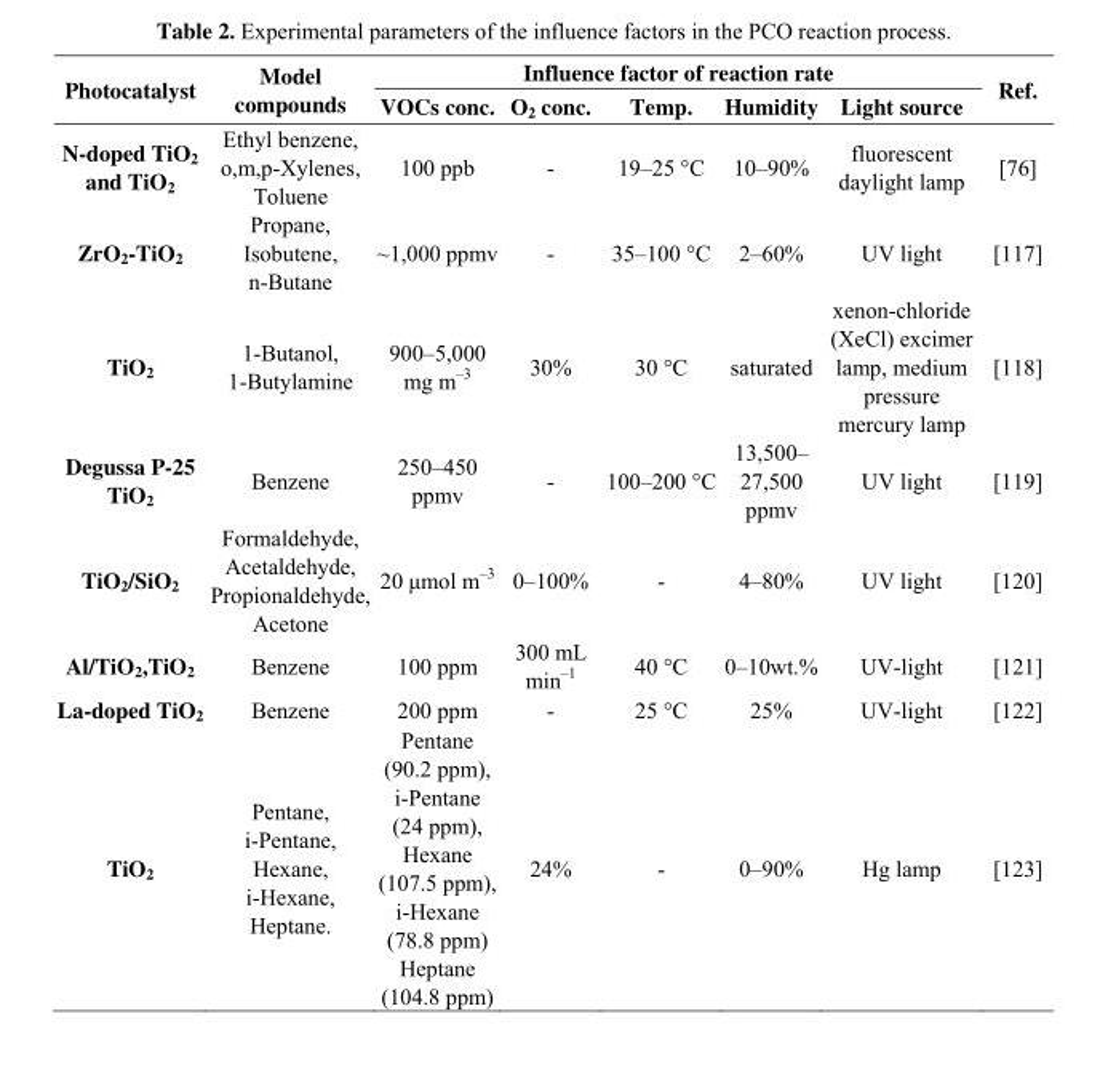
<table><thead><tr><td rowspan="2">Photocatalyst</td><td rowspan="2">Model compounds</td><td colspan="5">Influence factor of reaction rate</td><td rowspan="2">Ref.</td></tr><tr><td>VOCs conc.</td><td>O<sub>2</sub> conc.</td><td>Temp.</td><td>Humidity</td><td>Light source</td></tr></thead><tbody><tr><td>N-doped TiO<sub>2</sub> and TiO<sub>2</sub></td><td>Ethyl benzene, o,m,p-Xylenes, Toluene</td><td>100 ppb</td><td>-</td><td>19–25 °C</td><td>10–90%</td><td>fluorescent daylight lamp</td><td>[76]</td></tr><tr><td>ZrO<sub>2</sub>-TiO<sub>2</sub></td><td>Propane, Isobutene, n-Butane</td><td>~1,000 ppmv</td><td>-</td><td>35–100 °C</td><td>2–60%</td><td>UV light</td><td>[117]</td></tr><tr><td>TiO<sub>2</sub></td><td>1-Butanol, 1-Butylamine</td><td>900–5,000 mg m<sup>–3</sup></td><td>30%</td><td>30 °C</td><td>saturated</td><td>xenon-chloride (XeCl) excimer lamp, medium pressure mercury lamp</td><td>[118]</td></tr><tr><td>Degussa P-25 TiO<sub>2</sub></td><td>Benzene</td><td>250–450 ppmv</td><td>-</td><td>100–200 °C</td><td>13,500– 27,500 ppmv</td><td>UV light</td><td>[119]</td></tr><tr><td>TiO<sub>2</sub>/SiO<sub>2</sub></td><td>Formaldehyde, Acetaldehyde, Propionaldehyde, Acetone</td><td>20 μmol m<sup>–3</sup></td><td>0–100%</td><td>-</td><td>4–80%</td><td>UV light</td><td>[120]</td></tr><tr><td>Al/TiO<sub>2</sub>,TiO<sub>2</sub></td><td>Benzene</td><td>100 ppm</td><td>300 mL min<sup>–1</sup></td><td>40 °C</td><td>0–10wt.%</td><td>UV-light</td><td>[121]</td></tr><tr><td>La-doped TiO<sub>2</sub></td><td>Benzene</td><td>200 ppm</td><td>-</td><td>25 °C</td><td>25%</td><td>UV-light</td><td>[122]</td></tr><tr><td>TiO<sub>2</sub></td><td>Pentane, i-Pentane, Hexane, i-Hexane, Heptane.</td><td>Pentane (90.2 ppm), i-Pentane (24 ppm), Hexane (107.5 ppm), i-Hexane (78.8 ppm) Heptane (104.8 ppm)</td><td>24%</td><td>-</td><td>0–90%</td><td>Hg lamp</td><td>[123]</td></tr></tbody></table>